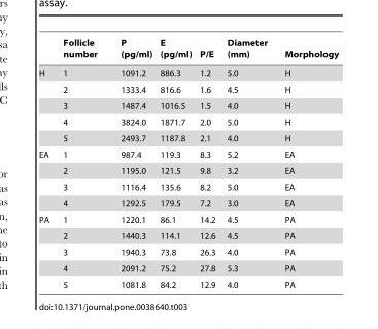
<table><thead><tr><td></td><td>Follicle number</td><td>P (pg/ml)</td><td>E (pg/ml)</td><td>P/E</td><td>Diameter (mm)</td><td>Morphology</td></tr></thead><tbody><tr><td rowspan="5">H</td><td>1</td><td>1091.2</td><td>886.3</td><td>1.2</td><td>5.0</td><td>H</td></tr><tr><td>2</td><td>1333.4</td><td>816.6</td><td>1.6</td><td>4.5</td><td>H</td></tr><tr><td>3</td><td>1487.4</td><td>1016.5</td><td>1.5</td><td>4.0</td><td>H</td></tr><tr><td>4</td><td>3824.0</td><td>1871.7</td><td>2.0</td><td>5.0</td><td>H</td></tr><tr><td>5</td><td>2493.7</td><td>1187.8</td><td>2.1</td><td>4.0</td><td>H</td></tr><tr><td rowspan="4">EA</td><td>1</td><td>987.4</td><td>119.3</td><td>8.3</td><td>5.2</td><td>EA</td></tr><tr><td>2</td><td>1195.0</td><td>121.5</td><td>9.8</td><td>3.2</td><td>EA</td></tr><tr><td>3</td><td>1116.4</td><td>135.6</td><td>8.2</td><td>5.0</td><td>EA</td></tr><tr><td>4</td><td>1292.5</td><td>179.5</td><td>7.2</td><td>3.0</td><td>EA</td></tr><tr><td rowspan="5">PA</td><td>1</td><td>1220.1</td><td>86.1</td><td>14.2</td><td>4.5</td><td>PA</td></tr><tr><td>2</td><td>1440.3</td><td>114.1</td><td>12.6</td><td>4.5</td><td>PA</td></tr><tr><td>3</td><td>1940.3</td><td>73.8</td><td>26.3</td><td>4.0</td><td>PA</td></tr><tr><td>4</td><td>2091.2</td><td>75.2</td><td>27.8</td><td>5.3</td><td>PA</td></tr><tr><td>5</td><td>1081.8</td><td>84.2</td><td>12.9</td><td>4.0</td><td>PA</td></tr></tbody></table>